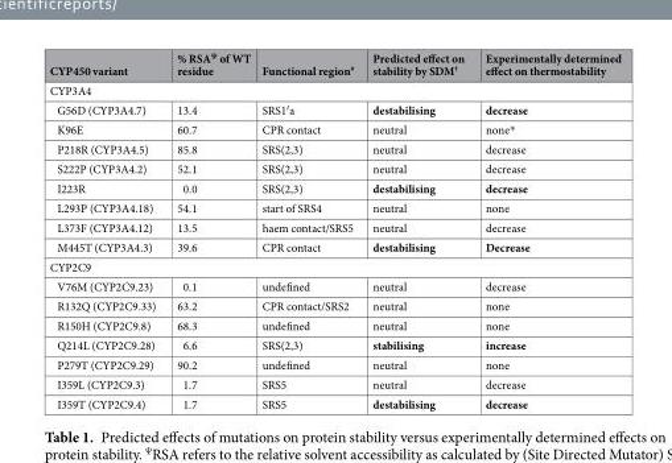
<table><thead><tr><td>CYP450 variant</td><td>% RSA<sup>Ψ</sup> of WT residue</td><td>Functional region<sup>#</sup></td><td>Predicted effect on stability by SDM<sup>†</sup></td><td>Experimentally determined effect on thermostability</td></tr></thead><tbody><tr><td colspan="5">CYP3A4</td></tr><tr><td>G56D (CYP3A4.7)</td><td>13.4</td><td>SRS1′a</td><td>destabilising</td><td>decrease</td></tr><tr><td>K96E</td><td>60.7</td><td>CPR contact</td><td>neutral</td><td>none*</td></tr><tr><td>P218R (CYP3A4.5)</td><td>85.8</td><td>SRS(2,3)</td><td>neutral</td><td>decrease</td></tr><tr><td>S222P (CYP3A4.2)</td><td>52.1</td><td>SRS(2,3)</td><td>neutral</td><td>decrease</td></tr><tr><td>I223R</td><td>0.0</td><td>SRS(2,3)</td><td>destabilising</td><td>decrease</td></tr><tr><td>L293P (CYP3A4.18)</td><td>54.1</td><td>start of SRS4</td><td>neutral</td><td>none</td></tr><tr><td>L373F (CYP3A4.12)</td><td>13.5</td><td>haem contact/SRS5</td><td>neutral</td><td>decrease</td></tr><tr><td>M445T (CYP3A4.3)</td><td>39.6</td><td>CPR contact</td><td>destabilising</td><td>Decrease</td></tr><tr><td colspan="5">CYP2C9</td></tr><tr><td>V76M (CYP2C9.23)</td><td>0.1</td><td>undefined</td><td>neutral</td><td>decrease</td></tr><tr><td>R132Q (CYP2C9.33)</td><td>63.2</td><td>CPR contact/SRS2</td><td>neutral</td><td>none</td></tr><tr><td>R150H (CYP2C9.8)</td><td>68.3</td><td>undefined</td><td>neutral</td><td>none</td></tr><tr><td>Q214L (CYP2C9.28)</td><td>6.6</td><td>SRS(2,3)</td><td>stabilising</td><td>increase</td></tr><tr><td>P279T (CYP2C9.29)</td><td>90.2</td><td>undefined</td><td>neutral</td><td>none</td></tr><tr><td>I359L (CYP2C9.3)</td><td>1.7</td><td>SRS5</td><td>neutral</td><td>decrease</td></tr><tr><td>I359T (CYP2C9.4)</td><td>1.7</td><td>SRS5</td><td>destabilising</td><td>decrease</td></tr></tbody></table>